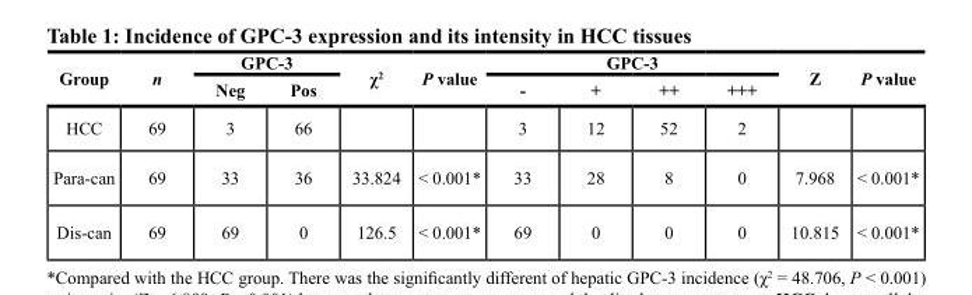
<table><thead><tr><td rowspan="2">Group</td><td rowspan="2">n</td><td colspan="2">GPC-3</td><td rowspan="2">χ<sup>2</sup></td><td rowspan="2">P value</td><td colspan="4">GPC-3</td><td rowspan="2">Z</td><td rowspan="2">P value</td></tr><tr><td>Neg</td><td>Pos</td><td>-</td><td>+</td><td>++</td><td>+++</td></tr></thead><tbody><tr><td>HCC</td><td>69</td><td>3</td><td>66</td><td></td><td></td><td>3</td><td>12</td><td>52</td><td>2</td><td></td><td></td></tr><tr><td>Para-can</td><td>69</td><td>33</td><td>36</td><td>33.824</td><td>&lt; 0.001*</td><td>33</td><td>28</td><td>8</td><td>0</td><td>7.968</td><td>&lt; 0.001*</td></tr><tr><td>Dis-can</td><td>69</td><td>69</td><td>0</td><td>126.5</td><td>&lt; 0.001*</td><td>69</td><td>0</td><td>0</td><td>0</td><td>10.815</td><td>&lt; 0.001*</td></tr></tbody></table>